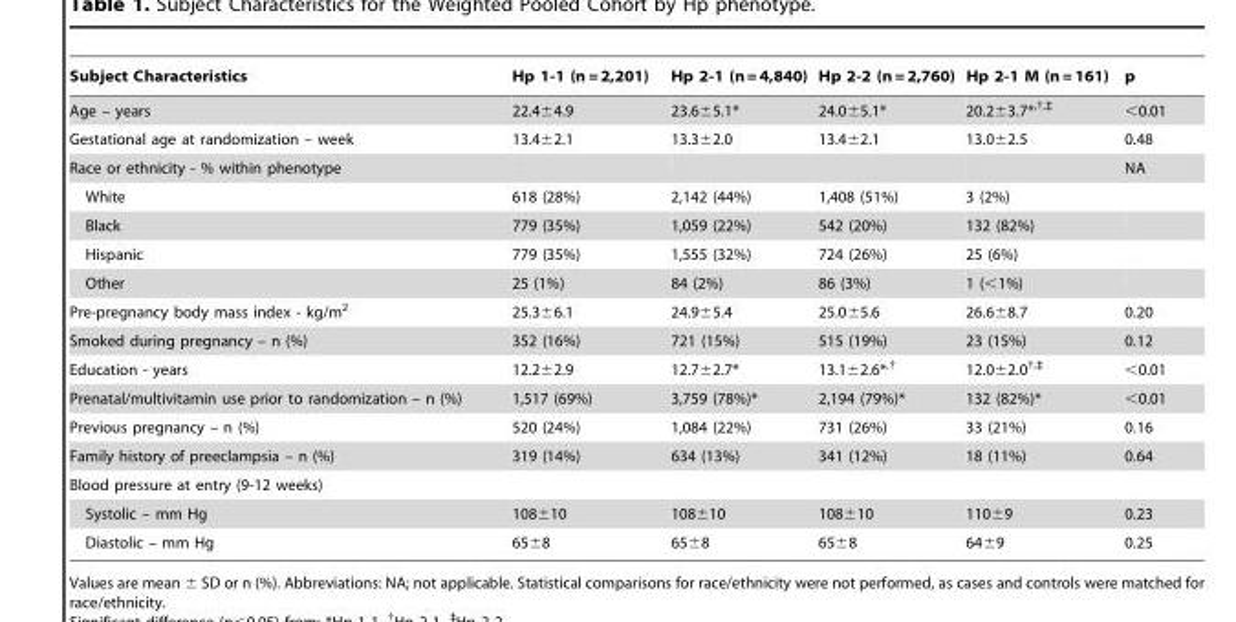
<table><thead><tr><td>Subject Characteristics</td><td>Hp 1-1 (n = 2,201)</td><td>Hp 2-1 (n = 4,840)</td><td>Hp 2-2 (n = 2,760)</td><td>Hp 2-1 M (n = 161)</td><td>p</td></tr></thead><tbody><tr><td>Age – years</td><td>22.4±4.9</td><td>23.6±5.1*</td><td>24.0±5.1*</td><td>20.2±3.7*<sup>,†,‡</sup></td><td>&lt;0.01</td></tr><tr><td>Gestational age at randomization – week</td><td>13.4±2.1</td><td>13.3±2.0</td><td>13.4±2.1</td><td>13.0±2.5</td><td>0.48</td></tr><tr><td>Race or ethnicity - % within phenotype</td><td></td><td></td><td></td><td></td><td>NA</td></tr><tr><td>White</td><td>618 (28%)</td><td>2,142 (44%)</td><td>1,408 (51%)</td><td>3 (2%)</td><td></td></tr><tr><td>Black</td><td>779 (35%)</td><td>1,059 (22%)</td><td>542 (20%)</td><td>132 (82%)</td><td></td></tr><tr><td>Hispanic</td><td>779 (35%)</td><td>1,555 (32%)</td><td>724 (26%)</td><td>25 (6%)</td><td></td></tr><tr><td>Other</td><td>25 (1%)</td><td>84 (2%)</td><td>86 (3%)</td><td>1 (&lt;1%)</td><td></td></tr><tr><td>Pre-pregnancy body mass index - kg/m<sup>2</sup></td><td>25.3±6.1</td><td>24.9±5.4</td><td>25.0±5.6</td><td>26.6±8.7</td><td>0.20</td></tr><tr><td>Smoked during pregnancy – n (%)</td><td>352 (16%)</td><td>721 (15%)</td><td>515 (19%)</td><td>23 (15%)</td><td>0.12</td></tr><tr><td>Education - years</td><td>12.2±2.9</td><td>12.7±2.7*</td><td>13.1±2.6*<sup>,†</sup></td><td>12.0±2.0<sup>†,‡</sup></td><td>&lt;0.01</td></tr><tr><td>Prenatal/multivitamin use prior to randomization – n (%)</td><td>1,517 (69%)</td><td>3,759 (78%)*</td><td>2,194 (79%)*</td><td>132 (82%)*</td><td>&lt;0.01</td></tr><tr><td>Previous pregnancy – n (%)</td><td>520 (24%)</td><td>1,084 (22%)</td><td>731 (26%)</td><td>33 (21%)</td><td>0.16</td></tr><tr><td>Family history of preeclampsia – n (%)</td><td>319 (14%)</td><td>634 (13%)</td><td>341 (12%)</td><td>18 (11%)</td><td>0.64</td></tr><tr><td colspan="6">Blood pressure at entry (9-12 weeks)</td></tr><tr><td>Systolic – mm Hg</td><td>108±10</td><td>108±10</td><td>108±10</td><td>110±9</td><td>0.23</td></tr><tr><td>Diastolic – mm Hg</td><td>65±8</td><td>65±8</td><td>65±8</td><td>64±9</td><td>0.25</td></tr></tbody></table>